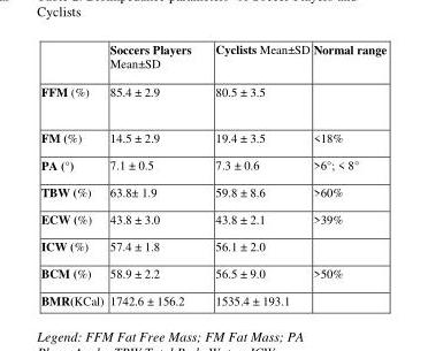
<table><thead><tr><td></td><td>Soccers Players Mean±SD</td><td>Cyclists Mean±SD</td><td>Normal range</td></tr></thead><tbody><tr><td>FFM (%)</td><td>85.4 ± 2.9</td><td>80.5 ± 3.5</td><td></td></tr><tr><td>FM (%)</td><td>14.5 ± 2.9</td><td>19.4 ± 3.5</td><td>&lt;18%</td></tr><tr><td>PA (°)</td><td>7.1 ± 0.5</td><td>7.3 ± 0.6</td><td>&gt;6°; &lt; 8°</td></tr><tr><td>TBW (%)</td><td>63.8± 1.9</td><td>59.8 ± 8.6</td><td>&gt;60%</td></tr><tr><td>ECW (%)</td><td>43.8 ± 3.0</td><td>43.8 ± 2.1</td><td>&gt;39%</td></tr><tr><td>ICW (%)</td><td>57.4 ± 1.8</td><td>56.1 ± 2.0</td><td></td></tr><tr><td>BCM (%)</td><td>58.9 ± 2.2</td><td>56.5 ± 9.0</td><td>&gt;50%</td></tr><tr><td>BMR(KCal)</td><td>1742.6 ± 156.2</td><td>1535.4 ± 193.1</td><td></td></tr></tbody></table>